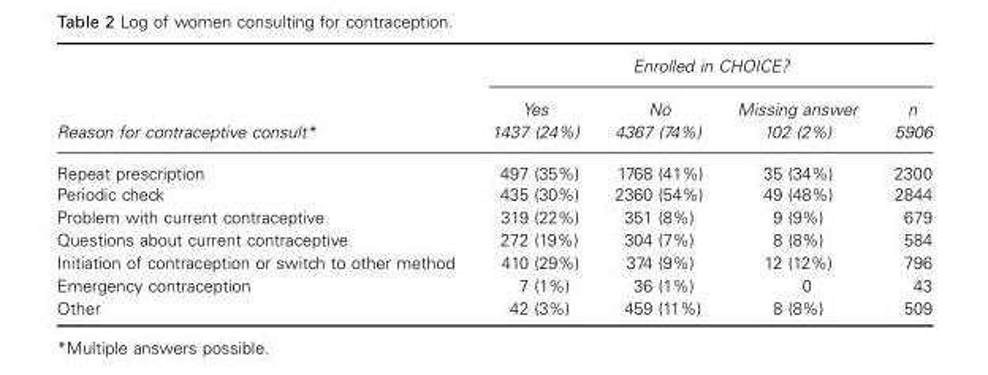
<table><thead><tr><td rowspan="2">Reason for contraceptive consult *</td><td colspan="4">Enrolled in CHOICE?</td></tr><tr><td>Yes 1437 (24%)</td><td>No 4367 (74%)</td><td>Missing answer 102 (2%)</td><td>n 5906</td></tr></thead><tbody><tr><td>Repeat prescription</td><td>497 (35%)</td><td>1768 (41%)</td><td>35 (34%)</td><td>2300</td></tr><tr><td>Periodic check</td><td>435 (30%)</td><td>2360 (54%)</td><td>49 (48%)</td><td>2844</td></tr><tr><td>Problem with current contraceptive</td><td>319 (22%)</td><td>351 (8%)</td><td>9 (9%)</td><td>679</td></tr><tr><td>Questions about current contraceptive</td><td>272 (19%)</td><td>304 (7%)</td><td>8 (8%)</td><td>584</td></tr><tr><td>Initiation of contraception or switch to other method</td><td>410 (29%)</td><td>374 (9%)</td><td>12 (12%)</td><td>796</td></tr><tr><td>Emergency contraception</td><td>7 (1%)</td><td>36 (1%)</td><td>0</td><td>43</td></tr><tr><td>Other</td><td>42 (3%)</td><td>459 (11%)</td><td>8 (8%)</td><td>509</td></tr></tbody></table>